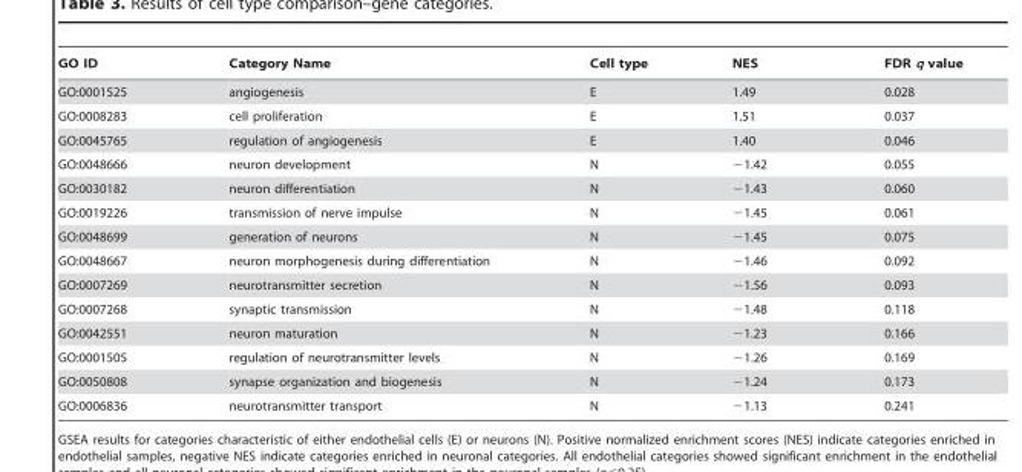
<table><thead><tr><td>GO ID</td><td>Category Name</td><td>Cell type</td><td>NES</td><td>FDR q value</td></tr></thead><tbody><tr><td>GO:0001525</td><td>angiogenesis</td><td>E</td><td>1.49</td><td>0.028</td></tr><tr><td>GO:0008283</td><td>cell proliferation</td><td>E</td><td>1.51</td><td>0.037</td></tr><tr><td>GO:0045765</td><td>regulation of angiogenesis</td><td>E</td><td>1.40</td><td>0.046</td></tr><tr><td>GO:0048666</td><td>neuron development</td><td>N</td><td>−1.42</td><td>0.055</td></tr><tr><td>GO:0030182</td><td>neuron differentiation</td><td>N</td><td>−1.43</td><td>0.060</td></tr><tr><td>GO:0019226</td><td>transmission of nerve impulse</td><td>N</td><td>−1.45</td><td>0.061</td></tr><tr><td>GO:0048699</td><td>generation of neurons</td><td>N</td><td>−1.45</td><td>0.075</td></tr><tr><td>GO:0048667</td><td>neuron morphogenesis during differentiation</td><td>N</td><td>−1.46</td><td>0.092</td></tr><tr><td>GO:0007269</td><td>neurotransmitter secretion</td><td>N</td><td>−1.56</td><td>0.093</td></tr><tr><td>GO:0007268</td><td>synaptic transmission</td><td>N</td><td>−1.48</td><td>0.118</td></tr><tr><td>GO:0042551</td><td>neuron maturation</td><td>N</td><td>−1.23</td><td>0.166</td></tr><tr><td>GO:0001505</td><td>regulation of neurotransmitter levels</td><td>N</td><td>−1.26</td><td>0.169</td></tr><tr><td>GO:0050808</td><td>synapse organization and biogenesis</td><td>N</td><td>−1.24</td><td>0.173</td></tr><tr><td>GO:0006836</td><td>neurotransmitter transport</td><td>N</td><td>−1.13</td><td>0.241</td></tr></tbody></table>